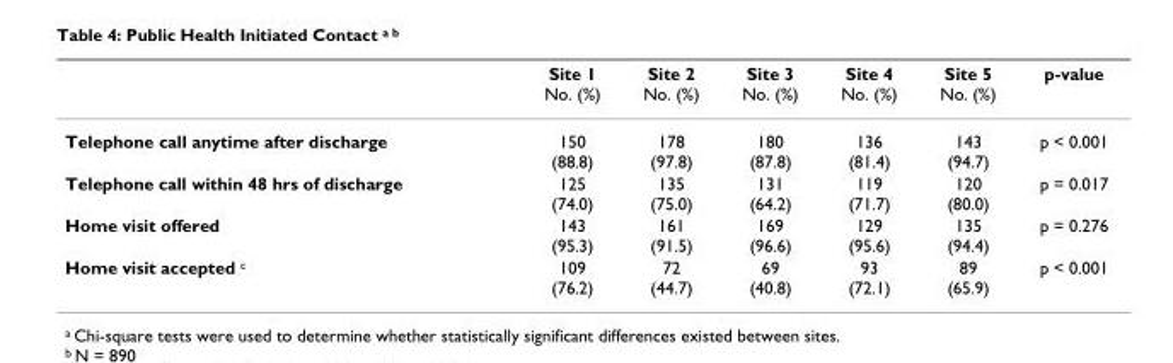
<table><thead><tr><td></td><td>Site 1 No. (%)</td><td>Site 2 No. (%)</td><td>Site 3 No. (%)</td><td>Site 4 No. (%)</td><td>Site 5 No. (%)</td><td>p-value</td></tr></thead><tbody><tr><td>Telephone call anytime after discharge</td><td>150 (88.8)</td><td>178 (97.8)</td><td>180 (87.8)</td><td>136 (81.4)</td><td>143 (94.7)</td><td>p &lt; 0.001</td></tr><tr><td>Telephone call within 48 hrs of discharge</td><td>125 (74.0)</td><td>135 (75.0)</td><td>131 (64.2)</td><td>119 (71.7)</td><td>120 (80.0)</td><td>p = 0.017</td></tr><tr><td>Home visit offered</td><td>143 (95.3)</td><td>161 (91.5)</td><td>169 (96.6)</td><td>129 (95.6)</td><td>135 (94.4)</td><td>p = 0.276</td></tr><tr><td>Home visit accepted <sup>c</sup></td><td>109 (76.2)</td><td>72 (44.7)</td><td>69 (40.8)</td><td>93 (72.1)</td><td>89 (65.9)</td><td>p &lt; 0.001</td></tr></tbody></table>